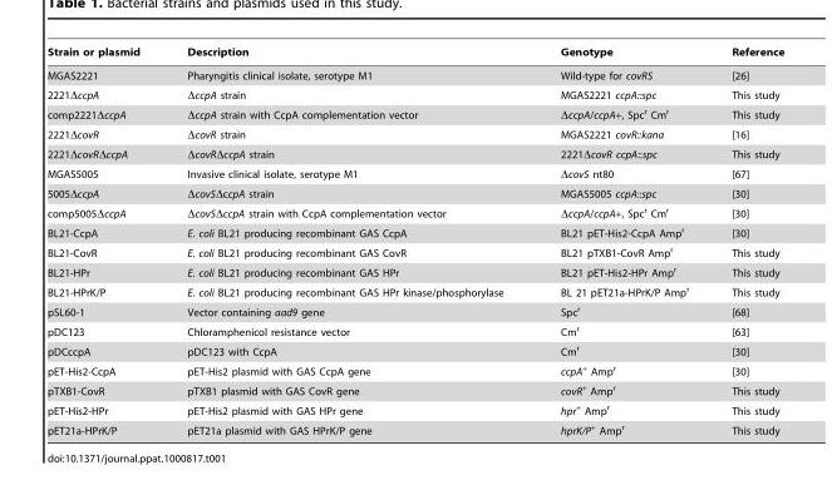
<table><thead><tr><td>Strain or plasmid</td><td>Description</td><td>Genotype</td><td>Reference</td></tr></thead><tbody><tr><td>MGAS2221</td><td>Pharyngitis clinical isolate, serotype M1</td><td>Wild-type for covRS</td><td>[26]</td></tr><tr><td>2221ΔccpA</td><td>ΔccpA strain</td><td>MGAS2221 ccpA::spc</td><td>This study</td></tr><tr><td>comp2221ΔccpA</td><td>ΔccpA strain with CcpA complementation vector</td><td>ΔccpA/ccpA+, Spc<sup>r</sup> Cm<sup>r</sup></td><td>This study</td></tr><tr><td>2221ΔcovR</td><td>ΔcovR strain</td><td>MGAS2221 covR::kana</td><td>[16]</td></tr><tr><td>2221ΔcovRΔccpA</td><td>ΔcovRΔccpA strain</td><td>2221ΔcovR ccpA::spc</td><td>This study</td></tr><tr><td>MGAS5005</td><td>Invasive clinical isolate, serotype M1</td><td>ΔcovS nt80</td><td>[67]</td></tr><tr><td>5005ΔccpA</td><td>ΔcovSΔccpA strain</td><td>MGAS5005 ccpA::spc</td><td>[30]</td></tr><tr><td>comp5005ΔccpA</td><td>ΔcovSΔccpA strain with CcpA complementation vector</td><td>ΔccpA/ccpA+, Spc<sup>r</sup> Cm<sup>r</sup></td><td>[30]</td></tr><tr><td>BL21-CcpA</td><td>E. coli BL21 producing recombinant GAS CcpA</td><td>BL21 pET-His2-CcpA Amp<sup>r</sup></td><td>[30]</td></tr><tr><td>BL21-CovR</td><td>E. coli BL21 producing recombinant GAS CovR</td><td>BL21 pTXB1-CovR Amp<sup>r</sup></td><td>This study</td></tr><tr><td>BL21-HPr</td><td>E. coli BL21 producing recombinant GAS HPr</td><td>BL21 pET-His2-HPr Amp<sup>r</sup></td><td>This study</td></tr><tr><td>BL21-HPrK/P</td><td>E. coli BL21 producing recombinant GAS HPr kinase/phosphorylase</td><td>BL 21 pET21a-HPrK/P Amp<sup>r</sup></td><td>This study</td></tr><tr><td>pSL60-1</td><td>Vector containing aad9 gene</td><td>Spc<sup>r</sup></td><td>[68]</td></tr><tr><td>pDC123</td><td>Chloramphenicol resistance vector</td><td>Cm<sup>r</sup></td><td>[63]</td></tr><tr><td>pDCccpA</td><td>pDC123 with CcpA</td><td>Cm<sup>r</sup></td><td>[30]</td></tr><tr><td>pET-His2-CcpA</td><td>pET-His2 plasmid with GAS CcpA gene</td><td>ccpA<sup>+</sup> Amp<sup>r</sup></td><td>[30]</td></tr><tr><td>pTXB1-CovR</td><td>pTXB1 plasmid with GAS CovR gene</td><td>covR<sup>+</sup> Amp<sup>r</sup></td><td>This study</td></tr><tr><td>pET-His2-HPr</td><td>pET-His2 plasmid with GAS HPr gene</td><td>hpr<sup>+</sup> Amp<sup>r</sup></td><td>This study</td></tr><tr><td>pET21a-HPrK/P</td><td>pET21a plasmid with GAS HPrK/P gene</td><td>hprK/P<sup>+</sup> Amp<sup>r</sup></td><td>This study</td></tr></tbody></table>